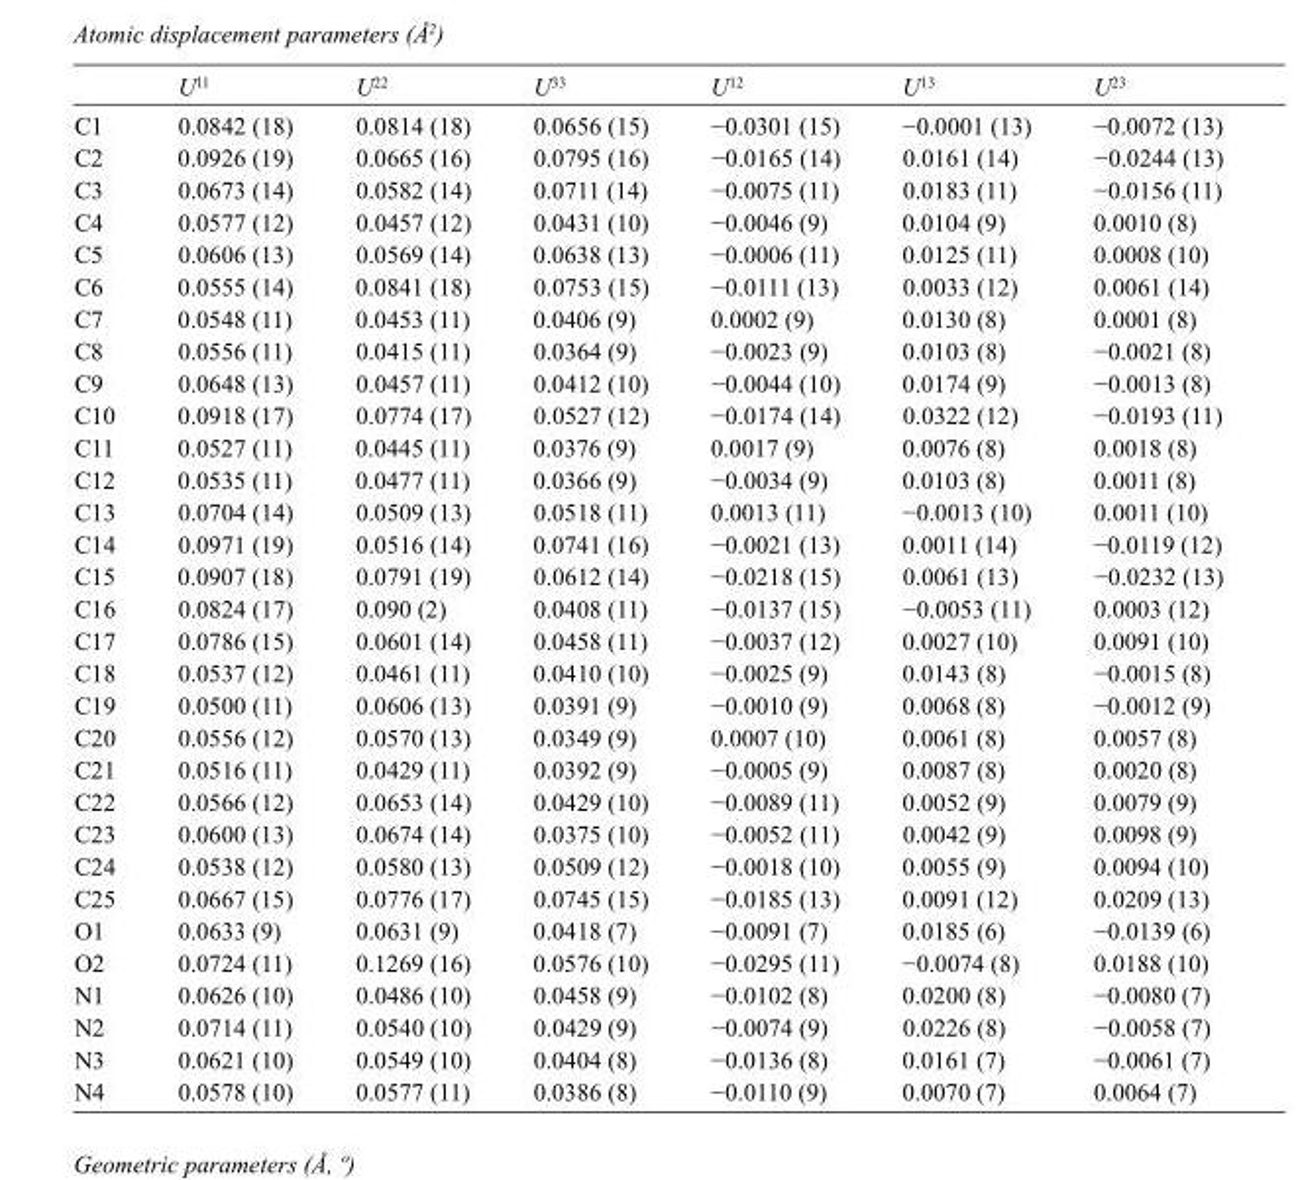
<table><thead><tr><td></td><td>U<sup>11</sup></td><td>U<sup>22</sup></td><td>U<sup>33</sup></td><td>U<sup>12</sup></td><td>U<sup>13</sup></td><td>U<sup>23</sup></td></tr></thead><tbody><tr><td>C1</td><td>0.0842 (18)</td><td>0.0814 (18)</td><td>0.0656 (15)</td><td>−0.0301 (15)</td><td>−0.0001 (13)</td><td>−0.0072 (13)</td></tr><tr><td>C2</td><td>0.0926 (19)</td><td>0.0665 (16)</td><td>0.0795 (16)</td><td>−0.0165 (14)</td><td>0.0161 (14)</td><td>−0.0244 (13)</td></tr><tr><td>C3</td><td>0.0673 (14)</td><td>0.0582 (14)</td><td>0.0711 (14)</td><td>−0.0075 (11)</td><td>0.0183 (11)</td><td>−0.0156 (11)</td></tr><tr><td>C4</td><td>0.0577 (12)</td><td>0.0457 (12)</td><td>0.0431 (10)</td><td>−0.0046 (9)</td><td>0.0104 (9)</td><td>0.0010 (8)</td></tr><tr><td>C5</td><td>0.0606 (13)</td><td>0.0569 (14)</td><td>0.0638 (13)</td><td>−0.0006 (11)</td><td>0.0125 (11)</td><td>0.0008 (10)</td></tr><tr><td>C6</td><td>0.0555 (14)</td><td>0.0841 (18)</td><td>0.0753 (15)</td><td>−0.0111 (13)</td><td>0.0033 (12)</td><td>0.0061 (14)</td></tr><tr><td>C7</td><td>0.0548 (11)</td><td>0.0453 (11)</td><td>0.0406 (9)</td><td>0.0002 (9)</td><td>0.0130 (8)</td><td>0.0001 (8)</td></tr><tr><td>C8</td><td>0.0556 (11)</td><td>0.0415 (11)</td><td>0.0364 (9)</td><td>−0.0023 (9)</td><td>0.0103 (8)</td><td>−0.0021 (8)</td></tr><tr><td>C9</td><td>0.0648 (13)</td><td>0.0457 (11)</td><td>0.0412 (10)</td><td>−0.0044 (10)</td><td>0.0174 (9)</td><td>−0.0013 (8)</td></tr><tr><td>C10</td><td>0.0918 (17)</td><td>0.0774 (17)</td><td>0.0527 (12)</td><td>−0.0174 (14)</td><td>0.0322 (12)</td><td>−0.0193 (11)</td></tr><tr><td>C11</td><td>0.0527 (11)</td><td>0.0445 (11)</td><td>0.0376 (9)</td><td>0.0017 (9)</td><td>0.0076 (8)</td><td>0.0018 (8)</td></tr><tr><td>C12</td><td>0.0535 (11)</td><td>0.0477 (11)</td><td>0.0366 (9)</td><td>−0.0034 (9)</td><td>0.0103 (8)</td><td>0.0011 (8)</td></tr><tr><td>C13</td><td>0.0704 (14)</td><td>0.0509 (13)</td><td>0.0518 (11)</td><td>0.0013 (11)</td><td>−0.0013 (10)</td><td>0.0011 (10)</td></tr><tr><td>C14</td><td>0.0971 (19)</td><td>0.0516 (14)</td><td>0.0741 (16)</td><td>−0.0021 (13)</td><td>0.0011 (14)</td><td>−0.0119 (12)</td></tr><tr><td>C15</td><td>0.0907 (18)</td><td>0.0791 (19)</td><td>0.0612 (14)</td><td>−0.0218 (15)</td><td>0.0061 (13)</td><td>−0.0232 (13)</td></tr><tr><td>C16</td><td>0.0824 (17)</td><td>0.090 (2)</td><td>0.0408 (11)</td><td>−0.0137 (15)</td><td>−0.0053 (11)</td><td>0.0003 (12)</td></tr><tr><td>C17</td><td>0.0786 (15)</td><td>0.0601 (14)</td><td>0.0458 (11)</td><td>−0.0037 (12)</td><td>0.0027 (10)</td><td>0.0091 (10)</td></tr><tr><td>C18</td><td>0.0537 (12)</td><td>0.0461 (11)</td><td>0.0410 (10)</td><td>−0.0025 (9)</td><td>0.0143 (8)</td><td>−0.0015 (8)</td></tr><tr><td>C19</td><td>0.0500 (11)</td><td>0.0606 (13)</td><td>0.0391 (9)</td><td>−0.0010 (9)</td><td>0.0068 (8)</td><td>−0.0012 (9)</td></tr><tr><td>C20</td><td>0.0556 (12)</td><td>0.0570 (13)</td><td>0.0349 (9)</td><td>0.0007 (10)</td><td>0.0061 (8)</td><td>0.0057 (8)</td></tr><tr><td>C21</td><td>0.0516 (11)</td><td>0.0429 (11)</td><td>0.0392 (9)</td><td>−0.0005 (9)</td><td>0.0087 (8)</td><td>0.0020 (8)</td></tr><tr><td>C22</td><td>0.0566 (12)</td><td>0.0653 (14)</td><td>0.0429 (10)</td><td>−0.0089 (11)</td><td>0.0052 (9)</td><td>0.0079 (9)</td></tr><tr><td>C23</td><td>0.0600 (13)</td><td>0.0674 (14)</td><td>0.0375 (10)</td><td>−0.0052 (11)</td><td>0.0042 (9)</td><td>0.0098 (9)</td></tr><tr><td>C24</td><td>0.0538 (12)</td><td>0.0580 (13)</td><td>0.0509 (12)</td><td>−0.0018 (10)</td><td>0.0055 (9)</td><td>0.0094 (10)</td></tr><tr><td>C25</td><td>0.0667 (15)</td><td>0.0776 (17)</td><td>0.0745 (15)</td><td>−0.0185 (13)</td><td>0.0091 (12)</td><td>0.0209 (13)</td></tr><tr><td>O1</td><td>0.0633 (9)</td><td>0.0631 (9)</td><td>0.0418 (7)</td><td>−0.0091 (7)</td><td>0.0185 (6)</td><td>−0.0139 (6)</td></tr><tr><td>O2</td><td>0.0724 (11)</td><td>0.1269 (16)</td><td>0.0576 (10)</td><td>−0.0295 (11)</td><td>−0.0074 (8)</td><td>0.0188 (10)</td></tr><tr><td>N1</td><td>0.0626 (10)</td><td>0.0486 (10)</td><td>0.0458 (9)</td><td>−0.0102 (8)</td><td>0.0200 (8)</td><td>−0.0080 (7)</td></tr><tr><td>N2</td><td>0.0714 (11)</td><td>0.0540 (10)</td><td>0.0429 (9)</td><td>−0.0074 (9)</td><td>0.0226 (8)</td><td>−0.0058 (7)</td></tr><tr><td>N3</td><td>0.0621 (10)</td><td>0.0549 (10)</td><td>0.0404 (8)</td><td>−0.0136 (8)</td><td>0.0161 (7)</td><td>−0.0061 (7)</td></tr><tr><td>N4</td><td>0.0578 (10)</td><td>0.0577 (11)</td><td>0.0386 (8)</td><td>−0.0110 (9)</td><td>0.0070 (7)</td><td>0.0064 (7)</td></tr></tbody></table>